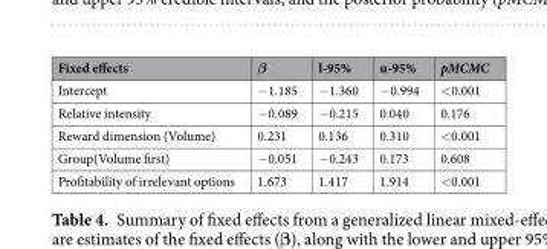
<table><thead><tr><td>Fixed effects</td><td>β</td><td>l-95%</td><td>u-95%</td><td>pMCMC</td></tr></thead><tbody><tr><td>Intercept</td><td>−1.185</td><td>−1.360</td><td>−0.994</td><td>&lt;0.001</td></tr><tr><td>Relative intensity</td><td>−0.089</td><td>−0.215</td><td>0.040</td><td>0.176</td></tr><tr><td>Reward dimension (Volume)</td><td>0.231</td><td>0.136</td><td>0.310</td><td>&lt;0.001</td></tr><tr><td>Group(Volume first)</td><td>−0.051</td><td>−0.243</td><td>0.173</td><td>0.608</td></tr><tr><td>Profitability of irrelevant options</td><td>1.673</td><td>1.417</td><td>1.914</td><td>&lt;0.001</td></tr></tbody></table>